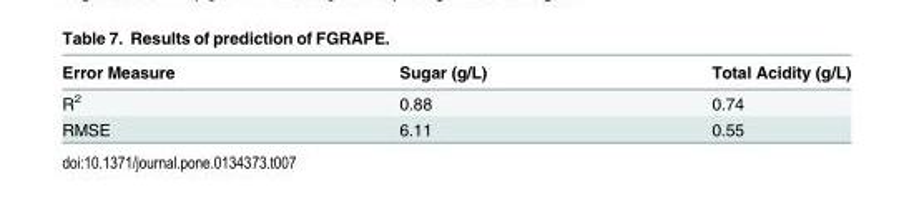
<table><thead><tr><td>Error Measure</td><td>Sugar (g/L)</td><td>Total Acidity (g/L)</td></tr></thead><tbody><tr><td>R<sup>2</sup></td><td>0.88</td><td>0.74</td></tr><tr><td>RMSE</td><td>6.11</td><td>0.55</td></tr></tbody></table>